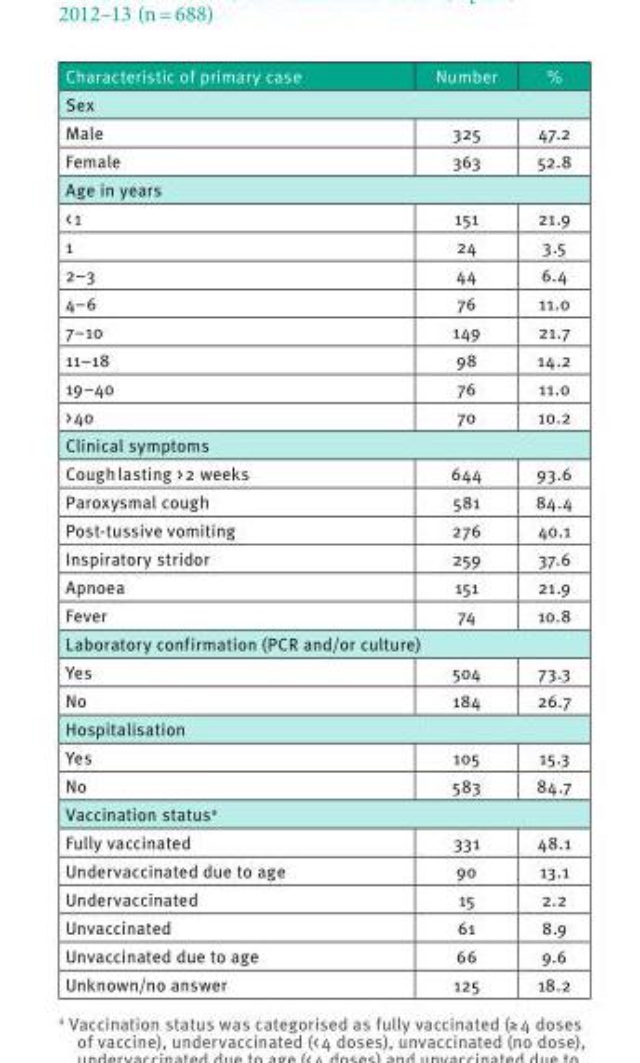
<table><thead><tr><td>Characteristic of primary case</td><td>Number</td><td>%</td></tr></thead><tbody><tr><td colspan="3">Sex</td></tr><tr><td>Male</td><td>325</td><td>47.2</td></tr><tr><td>Female</td><td>363</td><td>52.8</td></tr><tr><td colspan="3">Age in years</td></tr><tr><td>&lt; 1</td><td>151</td><td>21.9</td></tr><tr><td>1</td><td>24</td><td>3.5</td></tr><tr><td>2–3</td><td>44</td><td>6.4</td></tr><tr><td>4–6</td><td>76</td><td>11.0</td></tr><tr><td>7–10</td><td>149</td><td>21.7</td></tr><tr><td>11–18</td><td>98</td><td>14.2</td></tr><tr><td>19–40</td><td>76</td><td>11.0</td></tr><tr><td>&gt; 40</td><td>70</td><td>10.2</td></tr><tr><td colspan="3">Clinical symptoms</td></tr><tr><td>Cough lasting &gt; 2 weeks</td><td>644</td><td>93.6</td></tr><tr><td>Paroxysmal cough</td><td>581</td><td>84.4</td></tr><tr><td>Post-tussive vomiting</td><td>276</td><td>40.1</td></tr><tr><td>Inspiratory stridor</td><td>259</td><td>37.6</td></tr><tr><td>Apnoea</td><td>151</td><td>21.9</td></tr><tr><td>Fever</td><td>74</td><td>10.8</td></tr><tr><td colspan="3">Laboratory confirmation (PCR and/or culture)</td></tr><tr><td>Yes</td><td>504</td><td>73.3</td></tr><tr><td>No</td><td>184</td><td>26.7</td></tr><tr><td colspan="3">Hospitalisation</td></tr><tr><td>Yes</td><td>105</td><td>15.3</td></tr><tr><td>No</td><td>583</td><td>84.7</td></tr><tr><td colspan="3">Vaccination status<sup>a</sup></td></tr><tr><td>Fully vaccinated</td><td>331</td><td>48.1</td></tr><tr><td>Undervaccinated due to age</td><td>90</td><td>13.1</td></tr><tr><td>Undervaccinated</td><td>15</td><td>2.2</td></tr><tr><td>Unvaccinated</td><td>61</td><td>8.9</td></tr><tr><td>Unvaccinated due to age</td><td>66</td><td>9.6</td></tr><tr><td>Unknown/no answer</td><td>125</td><td>18.2</td></tr></tbody></table>